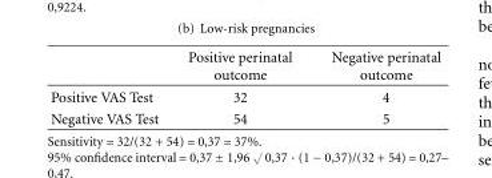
<table><thead><tr><td></td><td>Positive perinatal outcome</td><td>Negative perinatal outcome</td></tr></thead><tbody><tr><td>Positive VAS Test</td><td>32</td><td>4</td></tr><tr><td>Negative VAS Test</td><td>54</td><td>5</td></tr></tbody></table>